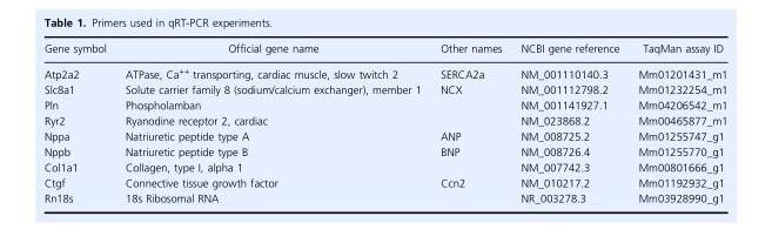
<table><thead><tr><td>Gene symbol</td><td>Official gene name</td><td>Other names</td><td>NCBI gene reference</td><td>TaqMan assay ID</td></tr></thead><tbody><tr><td>Atp2a2</td><td>ATPase, Ca<sup>++</sup> transporting, cardiac muscle, slow twitch 2</td><td>SERCA2a</td><td>NM_001110140.3</td><td>Mm01201431_m1</td></tr><tr><td>Slc8a1</td><td>Solute carrier family 8 (sodium/calcium exchanger), member 1</td><td>NCX</td><td>NM_001112798.2</td><td>Mm01232254_m1</td></tr><tr><td>Pln</td><td>Phospholamban</td><td></td><td>NM_001141927.1</td><td>Mm04206542_m1</td></tr><tr><td>Ryr2</td><td>Ryanodine receptor 2, cardiac</td><td></td><td>NM_023868.2</td><td>Mm00465877_m1</td></tr><tr><td>Nppa</td><td>Natriuretic peptide type A</td><td>ANP</td><td>NM_008725.2</td><td>Mm01255747_g1</td></tr><tr><td>Nppb</td><td>Natriuretic peptide type B</td><td>BNP</td><td>NM_008726.4</td><td>Mm01255770_g1</td></tr><tr><td>Col1a1</td><td>Collagen, type I, alpha 1</td><td></td><td>NM_007742.3</td><td>Mm00801666_g1</td></tr><tr><td>Ctgf</td><td>Connective tissue growth factor</td><td>Ccn2</td><td>NM_010217.2</td><td>Mm01192932_g1</td></tr><tr><td>Rn18s</td><td>18s Ribosomal RNA</td><td></td><td>NR_003278.3</td><td>Mm03928990_g1</td></tr></tbody></table>